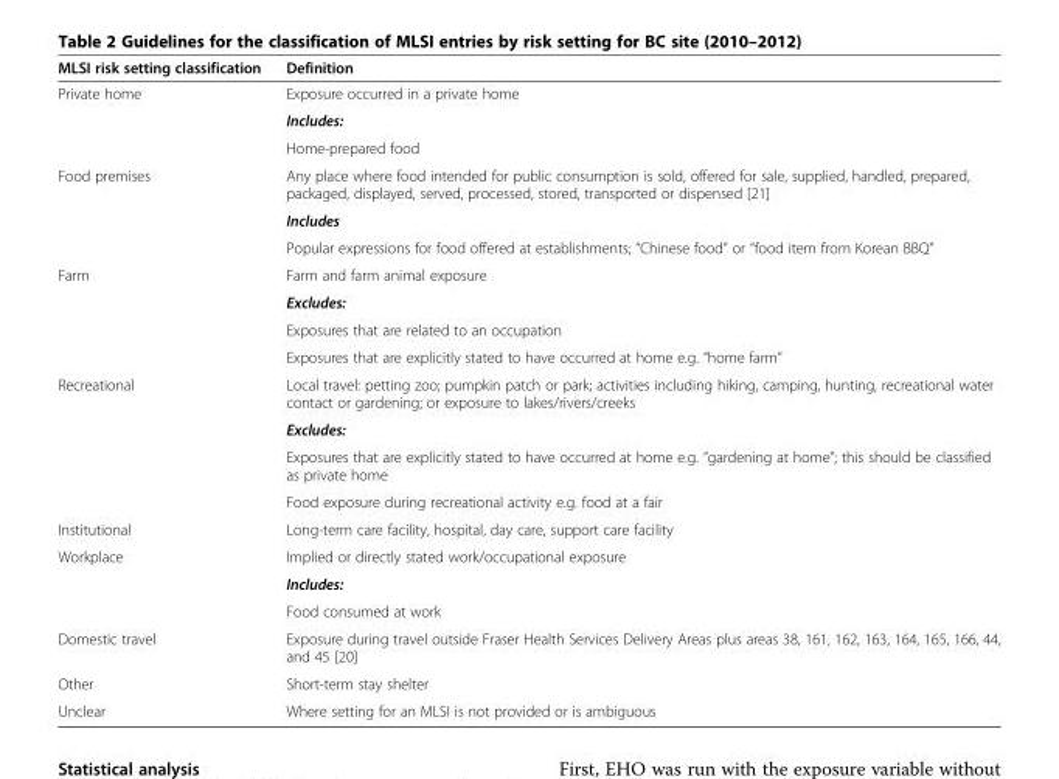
<table><thead><tr><td>MLSI risk setting classification</td><td>Definition</td></tr></thead><tbody><tr><td rowspan="3">Private home</td><td>Exposure occurred in a private home</td></tr><tr><td>Includes:</td></tr><tr><td>Home-prepared food</td></tr><tr><td rowspan="3">Food premises</td><td>Any place where food intended for public consumption is sold, offered for sale, supplied, handled, prepared, packaged, displayed, served, processed, stored, transported or dispensed [21]</td></tr><tr><td>Includes</td></tr><tr><td>Popular expressions for food offered at establishments; “Chinese food” or “food item from Korean BBQ”</td></tr><tr><td rowspan="4">Farm</td><td>Farm and farm animal exposure</td></tr><tr><td>Excludes:</td></tr><tr><td>Exposures that are related to an occupation</td></tr><tr><td>Exposures that are explicitly stated to have occurred at home e.g. “home farm”</td></tr><tr><td rowspan="4">Recreational</td><td>Local travel: petting zoo; pumpkin patch or park; activities including hiking, camping, hunting, recreational water contact or gardening; or exposure to lakes/rivers/creeks</td></tr><tr><td>Excludes:</td></tr><tr><td>Exposures that are explicitly stated to have occurred at home e.g. “gardening at home”; this should be classified as private home</td></tr><tr><td>Food exposure during recreational activity e.g. food at a fair</td></tr><tr><td>Institutional</td><td>Long-term care facility, hospital, day care, support care facility</td></tr><tr><td rowspan="3">Workplace</td><td>Implied or directly stated work/occupational exposure</td></tr><tr><td>Includes:</td></tr><tr><td>Food consumed at work</td></tr><tr><td>Domestic travel</td><td>Exposure during travel outside Fraser Health Services Delivery Areas plus areas 38, 161, 162, 163, 164, 165, 166, 44, and 45 [20]</td></tr><tr><td>Other</td><td>Short-term stay shelter</td></tr><tr><td>Unclear</td><td>Where setting for an MLSI is not provided or is ambiguous</td></tr></tbody></table>